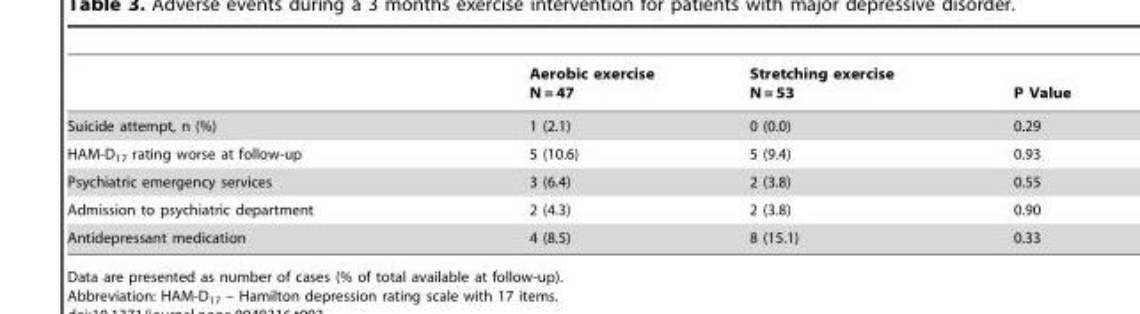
<table><thead><tr><td></td><td>Aerobic exercise N = 47</td><td>Stretching exercise N = 53</td><td>P Value</td></tr></thead><tbody><tr><td>Suicide attempt, n (%)</td><td>1 (2.1)</td><td>0 (0.0)</td><td>0.29</td></tr><tr><td>HAM-D<sub>17</sub> rating worse at follow-up</td><td>5 (10.6)</td><td>5 (9.4)</td><td>0.93</td></tr><tr><td>Psychiatric emergency services</td><td>3 (6.4)</td><td>2 (3.8)</td><td>0.55</td></tr><tr><td>Admission to psychiatric department</td><td>2 (4.3)</td><td>2 (3.8)</td><td>0.90</td></tr><tr><td>Antidepressant medication</td><td>4 (8.5)</td><td>8 (15.1)</td><td>0.33</td></tr></tbody></table>